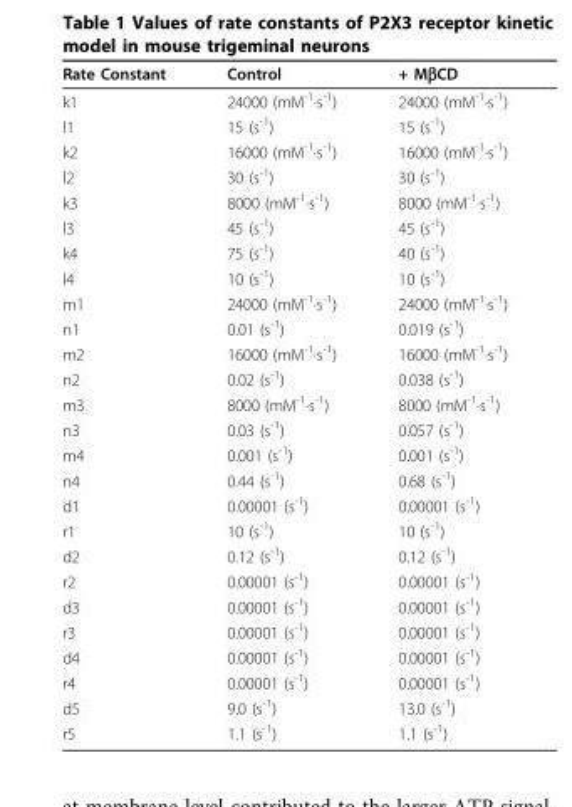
<table><thead><tr><td>Rate Constant</td><td>Control</td><td>+ MβCD</td></tr></thead><tbody><tr><td>k1</td><td>24000 (mM<sup>-1</sup>·s<sup>-1</sup>)</td><td>24000 (mM<sup>-1</sup>·s<sup>-1</sup>)</td></tr><tr><td>l1</td><td>15 (s<sup>-1</sup>)</td><td>15 (s<sup>-1</sup>)</td></tr><tr><td>k2</td><td>16000 (mM<sup>-1</sup>·s<sup>-1</sup>)</td><td>16000 (mM<sup>-1</sup>·s<sup>-1</sup>)</td></tr><tr><td>l2</td><td>30 (s<sup>-1</sup>)</td><td>30 (s<sup>-1</sup>)</td></tr><tr><td>k3</td><td>8000 (mM<sup>-1</sup>·s<sup>-1</sup>)</td><td>8000 (mM<sup>-1</sup>·s<sup>-1</sup>)</td></tr><tr><td>l3</td><td>45 (s<sup>-1</sup>)</td><td>45 (s<sup>-1</sup>)</td></tr><tr><td>k4</td><td>75 (s<sup>-1</sup>)</td><td>40 (s<sup>-1</sup>)</td></tr><tr><td>l4</td><td>10 (s<sup>-1</sup>)</td><td>10 (s<sup>-1</sup>)</td></tr><tr><td>m1</td><td>24000 (mM<sup>-1</sup>·s<sup>-1</sup>)</td><td>24000 (mM<sup>-1</sup>·s<sup>-1</sup>)</td></tr><tr><td>n1</td><td>0.01 (s<sup>-1</sup>)</td><td>0.019 (s<sup>-1</sup>)</td></tr><tr><td>m2</td><td>16000 (mM<sup>-1</sup>·s<sup>-1</sup>)</td><td>16000 (mM<sup>-1</sup>·s<sup>-1</sup>)</td></tr><tr><td>n2</td><td>0.02 (s<sup>-1</sup>)</td><td>0.038 (s<sup>-1</sup>)</td></tr><tr><td>m3</td><td>8000 (mM<sup>-1</sup>·s<sup>-1</sup>)</td><td>8000 (mM<sup>-1</sup>·s<sup>-1</sup>)</td></tr><tr><td>n3</td><td>0.03 (s<sup>-1</sup>)</td><td>0.057 (s<sup>-1</sup>)</td></tr><tr><td>m4</td><td>0.001 (s<sup>-1</sup>)</td><td>0.001 (s<sup>-1</sup>)</td></tr><tr><td>n4</td><td>0.44 (s<sup>-1</sup>)</td><td>0.68 (s<sup>-1</sup>)</td></tr><tr><td>d1</td><td>0.00001 (s<sup>-1</sup>)</td><td>0.00001 (s<sup>-1</sup>)</td></tr><tr><td>r1</td><td>10 (s<sup>-1</sup>)</td><td>10 (s<sup>-1</sup>)</td></tr><tr><td>d2</td><td>0.12 (s<sup>-1</sup>)</td><td>0.12 (s<sup>-1</sup>)</td></tr><tr><td>r2</td><td>0.00001 (s<sup>-1</sup>)</td><td>0.00001 (s<sup>-1</sup>)</td></tr><tr><td>d3</td><td>0.00001 (s<sup>-1</sup>)</td><td>0.00001 (s<sup>-1</sup>)</td></tr><tr><td>r3</td><td>0.00001 (s<sup>-1</sup>)</td><td>0.00001 (s<sup>-1</sup>)</td></tr><tr><td>d4</td><td>0.00001 (s<sup>-1</sup>)</td><td>0.00001 (s<sup>-1</sup>)</td></tr><tr><td>r4</td><td>0.00001 (s<sup>-1</sup>)</td><td>0.00001 (s<sup>-1</sup>)</td></tr><tr><td>d5</td><td>9.0 (s<sup>-1</sup>)</td><td>13.0 (s<sup>-1</sup>)</td></tr><tr><td>r5</td><td>1.1 (s<sup>-1</sup>)</td><td>1.1 (s<sup>-1</sup>)</td></tr></tbody></table>